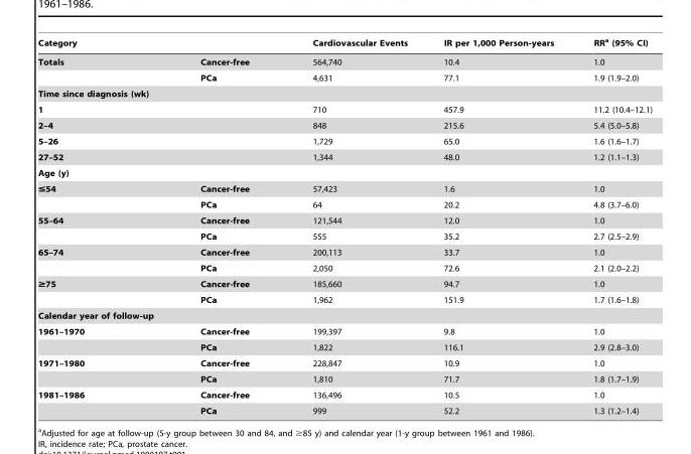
<table><thead><tr><td colspan="2">Category</td><td rowspan="2">Cardiovascular Events 564,740</td><td rowspan="2">IR per 1,000 Person-years 10.4</td><td rowspan="2">RR<sup>a</sup> (95% CI) 1.0</td></tr><tr><td>Totals</td><td>Cancer-free</td></tr></thead><tbody><tr><td></td><td>PCa</td><td>4,631</td><td>77.1</td><td>1.9 (1.9–2.0)</td></tr><tr><td colspan="5">Time since diagnosis (wk)</td></tr><tr><td>1</td><td></td><td>710</td><td>457.9</td><td>11.2 (10.4–12.1)</td></tr><tr><td>2–4</td><td></td><td>848</td><td>215.6</td><td>5.4 (5.0–5.8)</td></tr><tr><td>5–26</td><td></td><td>1,729</td><td>65.0</td><td>1.6 (1.6–1.7)</td></tr><tr><td>27–52</td><td></td><td>1,344</td><td>48.0</td><td>1.2 (1.1–1.3)</td></tr><tr><td colspan="5">Age (y)</td></tr><tr><td rowspan="2">≤54</td><td>Cancer-free</td><td>57,423</td><td>1.6</td><td>1.0</td></tr><tr><td>PCa</td><td>64</td><td>20.2</td><td>4.8 (3.7–6.0)</td></tr><tr><td rowspan="2">55–64</td><td>Cancer-free</td><td>121,544</td><td>12.0</td><td>1.0</td></tr><tr><td>PCa</td><td>555</td><td>35.2</td><td>2.7 (2.5–2.9)</td></tr><tr><td rowspan="2">65–74</td><td>Cancer-free</td><td>200,113</td><td>33.7</td><td>1.0</td></tr><tr><td>PCa</td><td>2,050</td><td>72.6</td><td>2.1 (2.0–2.2)</td></tr><tr><td rowspan="2">≥75</td><td>Cancer-free</td><td>185,660</td><td>94.7</td><td>1.0</td></tr><tr><td>PCa</td><td>1,962</td><td>151.9</td><td>1.7 (1.6–1.8)</td></tr><tr><td colspan="5">Calendar year of follow-up</td></tr><tr><td rowspan="2">1961–1970</td><td>Cancer-free</td><td>199,397</td><td>9.8</td><td>1.0</td></tr><tr><td>PCa</td><td>1,822</td><td>116.1</td><td>2.9 (2.8–3.0)</td></tr><tr><td rowspan="2">1971–1980</td><td>Cancer-free</td><td>228,847</td><td>10.9</td><td>1.0</td></tr><tr><td>PCa</td><td>1,810</td><td>71.7</td><td>1.8 (1.7–1.9)</td></tr><tr><td rowspan="2">1981–1986</td><td>Cancer-free</td><td>136,496</td><td>10.5</td><td>1.0</td></tr><tr><td>PCa</td><td>999</td><td>52.2</td><td>1.3 (1.2–1.4)</td></tr></tbody></table>